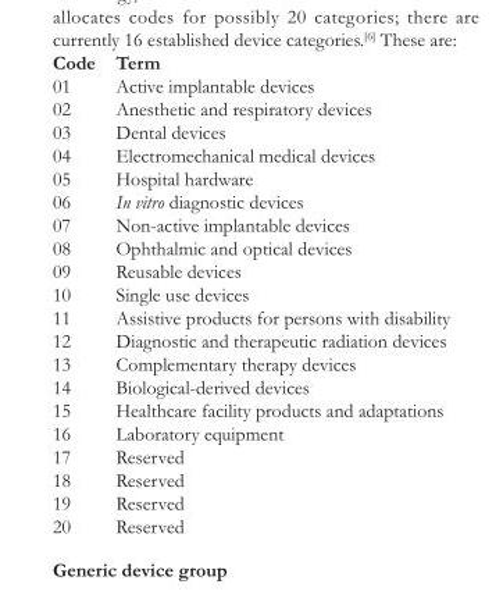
<table><thead><tr><td>Code</td><td>Term</td></tr></thead><tbody><tr><td>01</td><td>Active implantable devices</td></tr><tr><td>02</td><td>Anesthetic and respiratory devices</td></tr><tr><td>03</td><td>Dental devices</td></tr><tr><td>04</td><td>Electromechanical medical devices</td></tr><tr><td>05</td><td>Hospital hardware</td></tr><tr><td>06</td><td>In vitro diagnostic devices</td></tr><tr><td>07</td><td>Non-active implantable devices</td></tr><tr><td>08</td><td>Ophthalmic and optical devices</td></tr><tr><td>09</td><td>Reusable devices</td></tr><tr><td>10</td><td>Single use devices</td></tr><tr><td>11</td><td>Assistive products for persons with disability</td></tr><tr><td>12</td><td>Diagnostic and therapeutic radiation devices</td></tr><tr><td>13</td><td>Complementary therapy devices</td></tr><tr><td>14</td><td>Biological-derived devices</td></tr><tr><td>15</td><td>Healthcare facility products and adaptations</td></tr><tr><td>16</td><td>Laboratory equipment</td></tr><tr><td>17</td><td>Reserved</td></tr><tr><td>18</td><td>Reserved</td></tr><tr><td>19</td><td>Reserved</td></tr><tr><td>20</td><td>Reserved</td></tr></tbody></table>